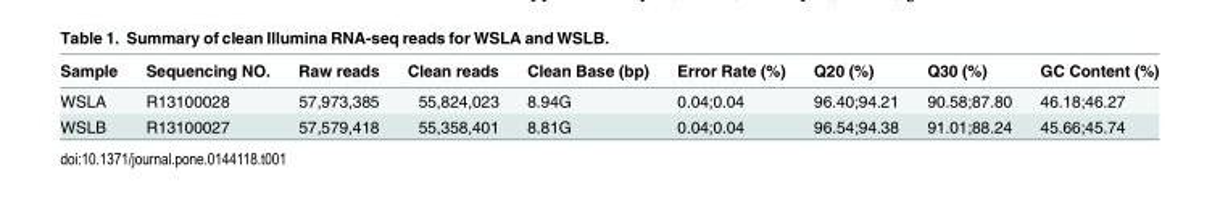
<table><thead><tr><td>Sample</td><td>Sequencing NO.</td><td>Raw reads</td><td>Clean reads</td><td>Clean Base (bp)</td><td>Error Rate (%)</td><td>Q20 (%)</td><td>Q30 (%)</td><td>GC Content (%)</td></tr></thead><tbody><tr><td>WSLA</td><td>R13100028</td><td>57,973,385</td><td>55,824,023</td><td>8.94G</td><td>0.04;0.04</td><td>96.40;94.21</td><td>90.58;87.80</td><td>46.18;46.27</td></tr><tr><td>WSLB</td><td>R13100027</td><td>57,579,418</td><td>55,358,401</td><td>8.81G</td><td>0.04;0.04</td><td>96.54;94.38</td><td>91.01;88.24</td><td>45.66;45.74</td></tr></tbody></table>